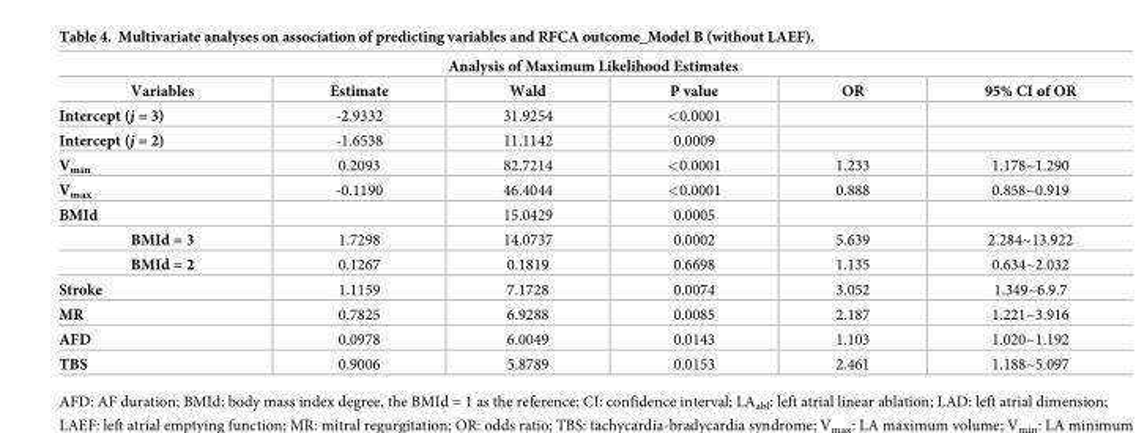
<table><thead><tr><td colspan="6">Analysis of Maximum Likelihood Estimates</td></tr><tr><td>Variables</td><td>Estimate</td><td>Wald</td><td>P value</td><td>OR</td><td>95% CI of OR</td></tr></thead><tbody><tr><td>Intercept (j = 3)</td><td>-2.9332</td><td>31.9254</td><td>&lt;0.0001</td><td></td><td></td></tr><tr><td>Intercept (j = 2)</td><td>-1.6538</td><td>11.1142</td><td>0.0009</td><td></td><td></td></tr><tr><td>V<sub>min</sub></td><td>0.2093</td><td>82.7214</td><td>&lt;0.0001</td><td>1.233</td><td>1.178~1.290</td></tr><tr><td>V<sub>max</sub></td><td>-0.1190</td><td>46.4044</td><td>&lt;0.0001</td><td>0.888</td><td>0.858~0.919</td></tr><tr><td>BMId</td><td></td><td>15.0429</td><td>0.0005</td><td></td><td></td></tr><tr><td>BMId = 3</td><td>1.7298</td><td>14.0737</td><td>0.0002</td><td>5.639</td><td>2.284~13.922</td></tr><tr><td>BMId = 2</td><td>0.1267</td><td>0.1819</td><td>0.6698</td><td>1.135</td><td>0.634~2.032</td></tr><tr><td>Stroke</td><td>1.1159</td><td>7.1728</td><td>0.0074</td><td>3.052</td><td>1.349~6.9.7</td></tr><tr><td>MR</td><td>0.7825</td><td>6.9288</td><td>0.0085</td><td>2.187</td><td>1.221~3.916</td></tr><tr><td>AFD</td><td>0.0978</td><td>6.0049</td><td>0.0143</td><td>1.103</td><td>1.020~1.192</td></tr><tr><td>TBS</td><td>0.9006</td><td>5.8789</td><td>0.0153</td><td>2.461</td><td>1.188~5.097</td></tr></tbody></table>